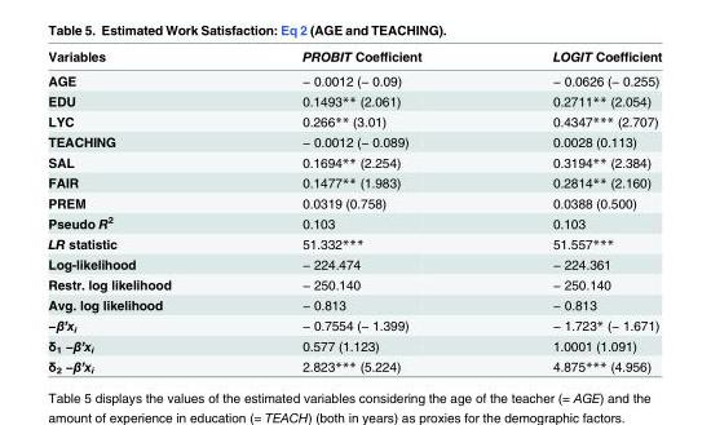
<table><thead><tr><td>Variables</td><td>PROBIT Coefficient</td><td>LOGIT Coefficient</td></tr></thead><tbody><tr><td>AGE</td><td>− 0.0012 (− 0.09)</td><td>− 0.0626 (− 0.255)</td></tr><tr><td>EDU</td><td>0.1493** (2.061)</td><td>0.2711** (2.054)</td></tr><tr><td>LYC</td><td>0.266** (3.01)</td><td>0.4347*** (2.707)</td></tr><tr><td>TEACHING</td><td>− 0.0012 (− 0.089)</td><td>0.0028 (0.113)</td></tr><tr><td>SAL</td><td>0.1694** (2.254)</td><td>0.3194** (2.384)</td></tr><tr><td>FAIR</td><td>0.1477** (1.983)</td><td>0.2814** (2.160)</td></tr><tr><td>PREM</td><td>0.0319 (0.758)</td><td>0.0388 (0.500)</td></tr><tr><td>Pseudo R<sup>2</sup></td><td>0.103</td><td>0.103</td></tr><tr><td>LR statistic</td><td>51.332***</td><td>51.557***</td></tr><tr><td>Log-likelihood</td><td>− 224.474</td><td>− 224.361</td></tr><tr><td>Restr. log likelihood</td><td>− 250.140</td><td>− 250.140</td></tr><tr><td>Avg. log likelihood</td><td>− 0.813</td><td>− 0.813</td></tr><tr><td>−β’x<sub>i</sub></td><td>− 0.7554 (− 1.399)</td><td>− 1.723* (− 1.671)</td></tr><tr><td>δ<sub>1</sub> −β’x<sub>i</sub></td><td>0.577 (1.123)</td><td>1.0001 (1.091)</td></tr><tr><td>δ<sub>2</sub> −β’x<sub>i</sub></td><td>2.823*** (5.224)</td><td>4.875*** (4.956)</td></tr></tbody></table>